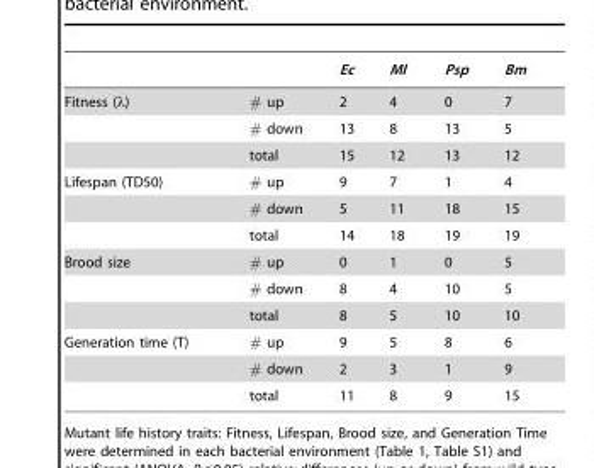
<table><thead><tr><td></td><td></td><td>Ec</td><td>Ml</td><td>Psp</td><td>Bm</td></tr></thead><tbody><tr><td rowspan="3">Fitness (λ)</td><td># up</td><td>2</td><td>4</td><td>0</td><td>7</td></tr><tr><td># down</td><td>13</td><td>8</td><td>13</td><td>5</td></tr><tr><td>total</td><td>15</td><td>12</td><td>13</td><td>12</td></tr><tr><td rowspan="3">Lifespan (TD50)</td><td># up</td><td>9</td><td>7</td><td>1</td><td>4</td></tr><tr><td># down</td><td>5</td><td>11</td><td>18</td><td>15</td></tr><tr><td>total</td><td>14</td><td>18</td><td>19</td><td>19</td></tr><tr><td rowspan="3">Brood size</td><td># up</td><td>0</td><td>1</td><td>0</td><td>5</td></tr><tr><td># down</td><td>8</td><td>4</td><td>10</td><td>5</td></tr><tr><td>total</td><td>8</td><td>5</td><td>10</td><td>10</td></tr><tr><td rowspan="3">Generation time (T)</td><td># up</td><td>9</td><td>5</td><td>8</td><td>6</td></tr><tr><td># down</td><td>2</td><td>3</td><td>1</td><td>9</td></tr><tr><td>total</td><td>11</td><td>8</td><td>9</td><td>15</td></tr></tbody></table>